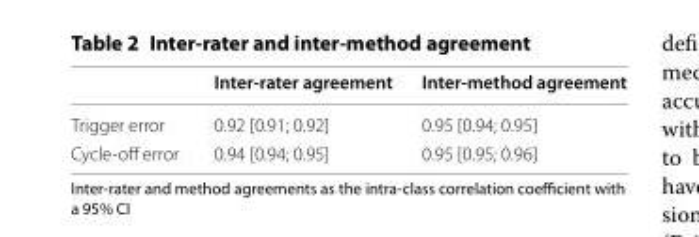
<table><thead><tr><td></td><td>Inter‑rater agreement</td><td>Inter‑method agreement</td></tr></thead><tbody><tr><td>Trigger error</td><td>0.92 [0.91; 0.92]</td><td>0.95 [0.94; 0.95]</td></tr><tr><td>Cycle-off error</td><td>0.94 [0.94; 0.95]</td><td>0.95 [0.95; 0.96]</td></tr></tbody></table>